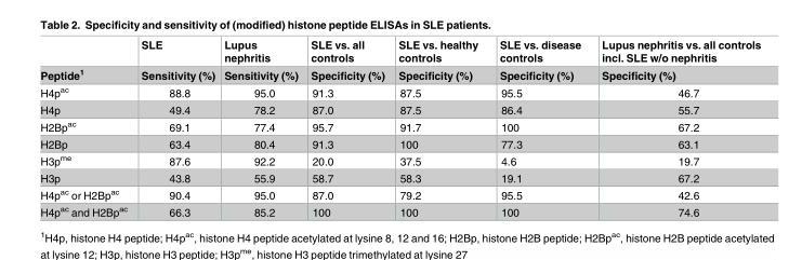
<table><thead><tr><td rowspan="2">Peptide<sup>1</sup></td><td rowspan="2">SLE Sensitivity (%)</td><td rowspan="2">Lupus nephritis Sensitivity (%)</td><td rowspan="2">SLE vs. all controls Specificity (%)</td><td rowspan="2">SLE vs. healthy controls Specificity (%)</td><td rowspan="2">SLE vs. disease controls Specificity (%)</td><td rowspan="2">Lupus nephritis vs. all controls incl. SLE w/o nephritis Specificity (%)</td></tr><tr></tr></thead><tbody><tr><td>H4p<sup>ac</sup></td><td>88.8</td><td>95.0</td><td>91.3</td><td>87.5</td><td>95.5</td><td>46.7</td></tr><tr><td>H4p</td><td>49.4</td><td>78.2</td><td>87.0</td><td>87.5</td><td>86.4</td><td>55.7</td></tr><tr><td>H2Bp<sup>ac</sup></td><td>69.1</td><td>77.4</td><td>95.7</td><td>91.7</td><td>100</td><td>67.2</td></tr><tr><td>H2Bp</td><td>63.4</td><td>80.4</td><td>91.3</td><td>100</td><td>77.3</td><td>63.1</td></tr><tr><td>H3p<sup>me</sup></td><td>87.6</td><td>92.2</td><td>20.0</td><td>37.5</td><td>4.6</td><td>19.7</td></tr><tr><td>H3p</td><td>43.8</td><td>55.9</td><td>58.7</td><td>58.3</td><td>19.1</td><td>67.2</td></tr><tr><td>H4p<sup>ac</sup> or H2Bp<sup>ac</sup></td><td>90.4</td><td>95.0</td><td>87.0</td><td>79.2</td><td>95.5</td><td>42.6</td></tr><tr><td>H4p<sup>ac</sup> and H2Bp<sup>ac</sup></td><td>66.3</td><td>85.2</td><td>100</td><td>100</td><td>100</td><td>74.6</td></tr></tbody></table>